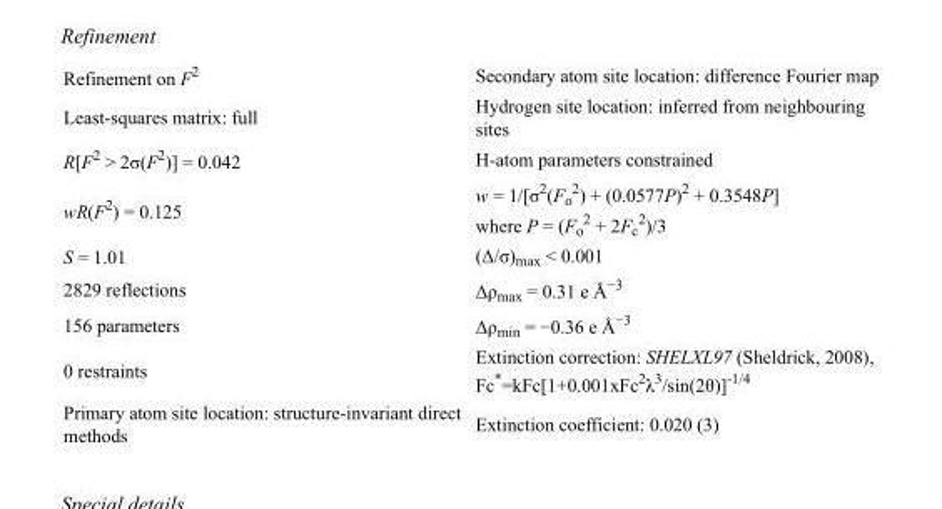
<table><tbody><tr><td>Refinement on F<sup>2</sup></td><td>Secondary atom site location: difference Fourier map</td></tr><tr><td>Least-squares matrix: full</td><td>Hydrogen site location: inferred from neighbouring sites</td></tr><tr><td>R[F<sup>2</sup> &gt; 2σ(F<sup>2</sup>)] = 0.042</td><td>H-atom parameters constrained</td></tr><tr><td>wR(F<sup>2</sup>) = 0.125</td><td>w = 1/[σ<sup>2</sup>(F<sub>o</sub> <sup>2</sup>) + (0.0577P)<sup>2</sup> + 0.3548P] where P = (F<sub>o</sub> <sup>2</sup> + 2F<sub>c</sub> <sup>2</sup>)/3</td></tr><tr><td>S = 1.01</td><td>(Δ/σ)<sub>max</sub> &lt; 0.001</td></tr><tr><td>2829 reflections</td><td>Δρ<sub>max</sub> = 0.31 e Å<sup>−3</sup></td></tr><tr><td>156 parameters</td><td>Δρ<sub>min</sub> = −0.36 e Å<sup>−3</sup></td></tr><tr><td>0 restraints</td><td>Extinction correction: SHELXL97 (Sheldrick, 2008), Fc*=kFc[1+0.001xFc<sup>2</sup>λ<sup>3</sup>/sin(2θ)]<sup>-1/4</sup></td></tr><tr><td>Primary atom site location: structure-invariant direct methods</td><td>Extinction coefficient: 0.020 (3)</td></tr></tbody></table>